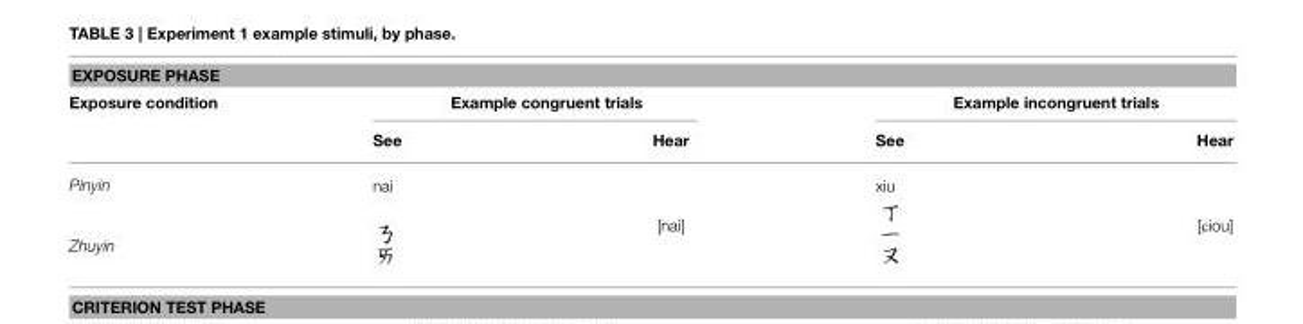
<table><thead><tr><td colspan="5">EXPOSURE PHASE</td></tr><tr><td rowspan="2">Exposure condition</td><td colspan="2">Example congruent trials</td><td colspan="2">Example incongruent trials</td></tr><tr><td>See</td><td>Hear</td><td>See</td><td>Hear</td></tr></thead><tbody><tr><td>Pinyin</td><td>nai</td><td>[nai]</td><td>xiu</td><td>[Ciou]</td></tr><tr><td>Zhuyin</td><td></td><td></td><td></td><td></td></tr></tbody></table>